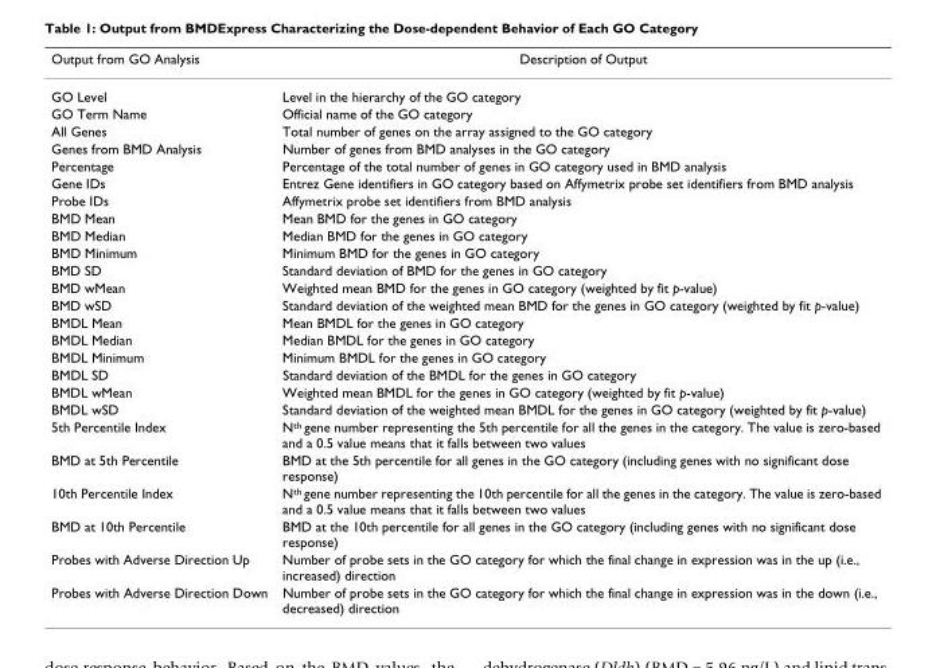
<table><thead><tr><td>Output from GO Analysis</td><td>Description of Output</td></tr></thead><tbody><tr><td>GO Level</td><td>Level in the hierarchy of the GO category</td></tr><tr><td>GO Term Name</td><td>Official name of the GO category</td></tr><tr><td>All Genes</td><td>Total number of genes on the array assigned to the GO category</td></tr><tr><td>Genes from BMD Analysis</td><td>Number of genes from BMD analyses in the GO category</td></tr><tr><td>Percentage</td><td>Percentage of the total number of genes in GO category used in BMD analysis</td></tr><tr><td>Gene IDs</td><td>Entrez Gene identifiers in GO category based on Affymetrix probe set identifiers from BMD analysis</td></tr><tr><td>Probe IDs</td><td>Affymetrix probe set identifiers from BMD analysis</td></tr><tr><td>BMD Mean</td><td>Mean BMD for the genes in GO category</td></tr><tr><td>BMD Median</td><td>Median BMD for the genes in GO category</td></tr><tr><td>BMD Minimum</td><td>Minimum BMD for the genes in GO category</td></tr><tr><td>BMD SD</td><td>Standard deviation of BMD for the genes in GO category</td></tr><tr><td>BMD wMean</td><td>Weighted mean BMD for the genes in GO category (weighted by fit p-value)</td></tr><tr><td>BMD wSD</td><td>Standard deviation of the weighted mean BMD for the genes in GO category (weighted by fit p-value)</td></tr><tr><td>BMDL Mean</td><td>Mean BMDL for the genes in GO category</td></tr><tr><td>BMDL Median</td><td>Median BMDL for the genes in GO category</td></tr><tr><td>BMDL Minimum</td><td>Minimum BMDL for the genes in GO category</td></tr><tr><td>BMDL SD</td><td>Standard deviation of the BMDL for the genes in GO category</td></tr><tr><td>BMDL wMean</td><td>Weighted mean BMDL for the genes in GO category (weighted by fit p-value)</td></tr><tr><td>BMDL wSD</td><td>Standard deviation of the weighted mean BMDL for the genes in GO category (weighted by fit p-value)</td></tr><tr><td>5th Percentile Index</td><td>N<sup>th</sup> gene number representing the 5th percentile for all the genes in the category. The value is zero-based and a 0.5 value means that it falls between two values</td></tr><tr><td>BMD at 5th Percentile</td><td>BMD at the 5th percentile for all genes in the GO category (including genes with no significant dose response)</td></tr><tr><td>10th Percentile Index</td><td>N<sup>th</sup> gene number representing the 10th percentile for all the genes in the category. The value is zero-based and a 0.5 value means that it falls between two values</td></tr><tr><td>BMD at 10th Percentile</td><td>BMD at the 10th percentile for all genes in the GO category (including genes with no significant dose response)</td></tr><tr><td>Probes with Adverse Direction Up</td><td>Number of probe sets in the GO category for which the final change in expression was in the up (i.e., increased) direction</td></tr><tr><td>Probes with Adverse Direction Down</td><td>Number of probe sets in the GO category for which the final change in expression was in the down (i.e., decreased) direction</td></tr></tbody></table>